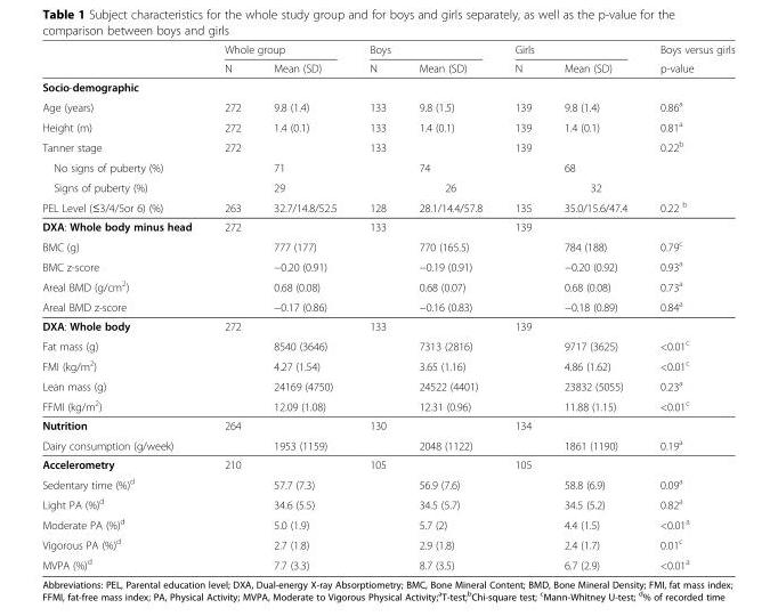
<table><thead><tr><td rowspan="2"></td><td colspan="2">Whole group</td><td colspan="2">Boys</td><td colspan="2">Girls</td><td rowspan="2">Boys versus girls p-value</td></tr><tr><td>N</td><td>Mean (SD)</td><td>N</td><td>Mean (SD)</td><td>N</td><td>Mean (SD)</td></tr></thead><tbody><tr><td colspan="8">Socio-demographic</td></tr><tr><td>Age (years)</td><td>272</td><td>9.8 (1.4)</td><td>133</td><td>9.8 (1.5)</td><td>139</td><td>9.8 (1.4)</td><td>0.86<sup>a</sup></td></tr><tr><td>Height (m)</td><td>272</td><td>1.4 (0.1)</td><td>133</td><td>1.4 (0.1)</td><td>139</td><td>1.4 (0.1)</td><td>0.81<sup>a</sup></td></tr><tr><td>Tanner stage</td><td>272</td><td></td><td>133</td><td></td><td>139</td><td></td><td rowspan="3">0.22<sup>b</sup></td></tr><tr><td>No signs of puberty (%)</td><td></td><td>71</td><td></td><td>74</td><td></td><td>68</td></tr><tr><td>Signs of puberty (%)</td><td></td><td>29</td><td></td><td>26</td><td></td><td>32</td></tr><tr><td>PEL Level (≤3/4/5or 6) (%)</td><td>263</td><td>32.7/14.8/52.5</td><td>128</td><td>28.1/14.4/57.8</td><td>135</td><td>35.0/15.6/47.4</td><td>0.22 <sup>b</sup></td></tr><tr><td>DXA: Whole body minus head</td><td>272</td><td></td><td>133</td><td></td><td>139</td><td></td><td></td></tr><tr><td>BMC (g)</td><td></td><td>777 (177)</td><td></td><td>770 (165.5)</td><td></td><td>784 (188)</td><td>0.79<sup>c</sup></td></tr><tr><td>BMC z-score</td><td></td><td>−0.20 (0.91)</td><td></td><td>−0.19 (0.91)</td><td></td><td>−0.20 (0.92)</td><td>0.93<sup>a</sup></td></tr><tr><td>Areal BMD (g/cm<sup>2</sup>)</td><td></td><td>0.68 (0.08)</td><td></td><td>0.68 (0.07)</td><td></td><td>0.68 (0.08)</td><td>0.73<sup>a</sup></td></tr><tr><td>Areal BMD z-score</td><td></td><td>−0.17 (0.86)</td><td></td><td>−0.16 (0.83)</td><td></td><td>−0.18 (0.89)</td><td>0.84<sup>a</sup></td></tr><tr><td>DXA: Whole body</td><td>272</td><td></td><td>133</td><td></td><td>139</td><td></td><td></td></tr><tr><td>Fat mass (g)</td><td></td><td>8540 (3646)</td><td></td><td>7313 (2816)</td><td></td><td>9717 (3625)</td><td>&lt;0.01<sup>c</sup></td></tr><tr><td>FMI (kg/m<sup>2</sup>)</td><td></td><td>4.27 (1.54)</td><td></td><td>3.65 (1.16)</td><td></td><td>4.86 (1.62)</td><td>&lt;0.01<sup>c</sup></td></tr><tr><td>Lean mass (g)</td><td></td><td>24169 (4750)</td><td></td><td>24522 (4401)</td><td></td><td>23832 (5055)</td><td>0.23<sup>a</sup></td></tr><tr><td>FFMI (kg/m<sup>2</sup>)</td><td></td><td>12.09 (1.08)</td><td></td><td>12.31 (0.96)</td><td></td><td>11.88 (1.15)</td><td>&lt;0.01<sup>c</sup></td></tr><tr><td>Nutrition</td><td>264</td><td></td><td>130</td><td></td><td>134</td><td></td><td></td></tr><tr><td>Dairy consumption (g/week)</td><td></td><td>1953 (1159)</td><td></td><td>2048 (1122)</td><td></td><td>1861 (1190)</td><td>0.19<sup>a</sup></td></tr><tr><td>Accelerometry</td><td>210</td><td></td><td>105</td><td></td><td>105</td><td></td><td></td></tr><tr><td>Sedentary time (%)<sup>d</sup></td><td></td><td>57.7 (7.3)</td><td></td><td>56.9 (7.6)</td><td></td><td>58.8 (6.9)</td><td>0.09<sup>a</sup></td></tr><tr><td>Light PA (%)<sup>d</sup></td><td></td><td>34.6 (5.5)</td><td></td><td>34.5 (5.7)</td><td></td><td>34.5 (5.2)</td><td>0.82<sup>a</sup></td></tr><tr><td>Moderate PA (%)<sup>d</sup></td><td></td><td>5.0 (1.9)</td><td></td><td>5.7 (2)</td><td></td><td>4.4 (1.5)</td><td>&lt;0.01<sup>a</sup></td></tr><tr><td>Vigorous PA (%)<sup>d</sup></td><td></td><td>2.7 (1.8)</td><td></td><td>2.9 (1.8)</td><td></td><td>2.4 (1.7)</td><td>0.01<sup>c</sup></td></tr><tr><td>MVPA (%)<sup>d</sup></td><td></td><td>7.7 (3.3)</td><td></td><td>8.7 (3.5)</td><td></td><td>6.7 (2.9)</td><td>&lt;0.01<sup>a</sup></td></tr></tbody></table>